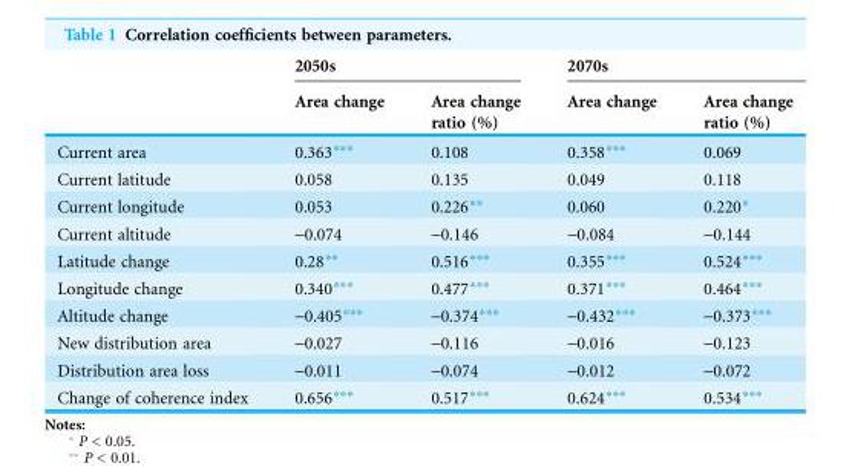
<table><thead><tr><td rowspan="2"></td><td colspan="2">2050s</td><td colspan="2">2070s</td></tr><tr><td>Area change</td><td>Area change ratio (%)</td><td>Area change</td><td>Area change ratio (%)</td></tr></thead><tbody><tr><td>Current area</td><td>0.363***</td><td>0.108</td><td>0.358***</td><td>0.069</td></tr><tr><td>Current latitude</td><td>0.058</td><td>0.135</td><td>0.049</td><td>0.118</td></tr><tr><td>Current longitude</td><td>0.053</td><td>0.226**</td><td>0.060</td><td>0.220*</td></tr><tr><td>Current altitude</td><td>-0.074</td><td>-0.146</td><td>-0.084</td><td>-0.144</td></tr><tr><td>Latitude change</td><td>0.28**</td><td>0.516***</td><td>0.355***</td><td>0.524***</td></tr><tr><td>Longitude change</td><td>0.340***</td><td>0.477***</td><td>0.371***</td><td>0.464***</td></tr><tr><td>Altitude change</td><td>-0.405***</td><td>-0.374***</td><td>-0.432***</td><td>-0.373***</td></tr><tr><td>New distribution area</td><td>-0.027</td><td>-0.116</td><td>-0.016</td><td>-0.123</td></tr><tr><td>Distribution area loss</td><td>-0.011</td><td>-0.074</td><td>-0.012</td><td>-0.072</td></tr><tr><td>Change of coherence index</td><td>0.656***</td><td>0.517***</td><td>0.624***</td><td>0.534***</td></tr></tbody></table>